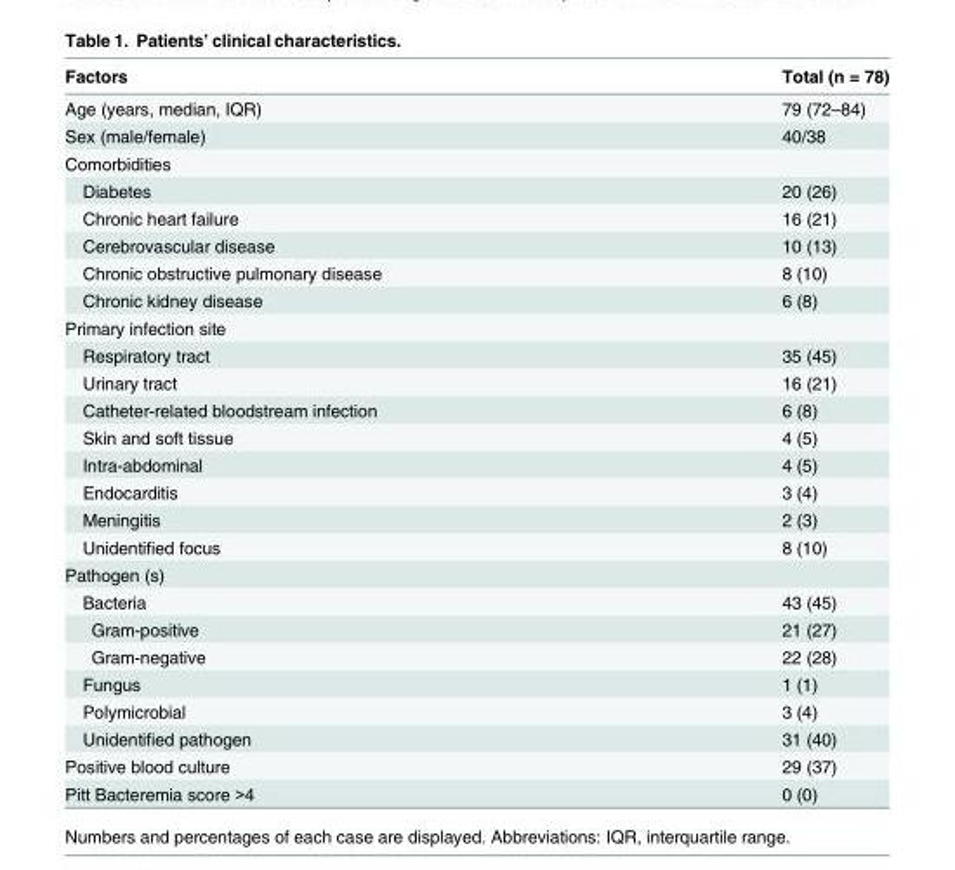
<table><thead><tr><td>Factors</td><td>Total (n = 78)</td></tr></thead><tbody><tr><td>Age (years, median, IQR)</td><td>79 (72–84)</td></tr><tr><td>Sex (male/female)</td><td>40/38</td></tr><tr><td colspan="2">Comorbidities</td></tr><tr><td>Diabetes</td><td>20 (26)</td></tr><tr><td>Chronic heart failure</td><td>16 (21)</td></tr><tr><td>Cerebrovascular disease</td><td>10 (13)</td></tr><tr><td>Chronic obstructive pulmonary disease</td><td>8 (10)</td></tr><tr><td>Chronic kidney disease</td><td>6 (8)</td></tr><tr><td colspan="2">Primary infection site</td></tr><tr><td>Respiratory tract</td><td>35 (45)</td></tr><tr><td>Urinary tract</td><td>16 (21)</td></tr><tr><td>Catheter-related bloodstream infection</td><td>6 (8)</td></tr><tr><td>Skin and soft tissue</td><td>4 (5)</td></tr><tr><td>Intra-abdominal</td><td>4 (5)</td></tr><tr><td>Endocarditis</td><td>3 (4)</td></tr><tr><td>Meningitis</td><td>2 (3)</td></tr><tr><td>Unidentified focus</td><td>8 (10)</td></tr><tr><td colspan="2">Pathogen (s)</td></tr><tr><td>Bacteria</td><td>43 (45)</td></tr><tr><td>Gram-positive</td><td>21 (27)</td></tr><tr><td>Gram-negative</td><td>22 (28)</td></tr><tr><td>Fungus</td><td>1 (1)</td></tr><tr><td>Polymicrobial</td><td>3 (4)</td></tr><tr><td>Unidentified pathogen</td><td>31 (40)</td></tr><tr><td>Positive blood culture</td><td>29 (37)</td></tr><tr><td>Pitt Bacteremia score &gt;4</td><td>0 (0)</td></tr></tbody></table>